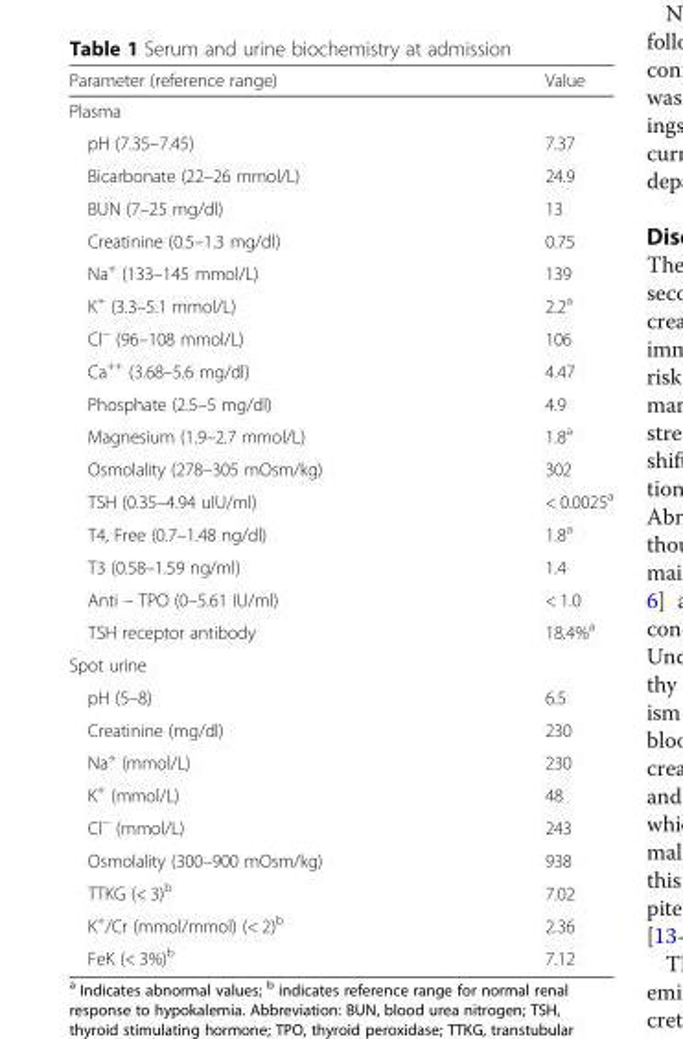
<table><thead><tr><td>Parameter (reference range)</td><td>Value</td></tr></thead><tbody><tr><td colspan="2">Plasma</td></tr><tr><td>pH (7.35–7.45)</td><td>7.37</td></tr><tr><td>Bicarbonate (22–26 mmol/L)</td><td>24.9</td></tr><tr><td>BUN (7–25 mg/dl)</td><td>13</td></tr><tr><td>Creatinine (0.5–1.3 mg/dl)</td><td>0.75</td></tr><tr><td>Na<sup>+</sup> (133–145 mmol/L)</td><td>139</td></tr><tr><td>K<sup>+</sup> (3.3–5.1 mmol/L)</td><td>2.2<sup>a</sup></td></tr><tr><td>Cl<sup>−</sup> (96–108 mmol/L)</td><td>106</td></tr><tr><td>Ca<sup>++</sup> (3.68–5.6 mg/dl)</td><td>4.47</td></tr><tr><td>Phosphate (2.5–5 mg/dl)</td><td>4.9</td></tr><tr><td>Magnesium (1.9–2.7 mmol/L)</td><td>1.8<sup>a</sup></td></tr><tr><td>Osmolality (278–305 mOsm/kg)</td><td>302</td></tr><tr><td>TSH (0.35–4.94 uIU/ml)</td><td>&lt; 0.0025<sup>a</sup></td></tr><tr><td>T4, Free (0.7–1.48 ng/dl)</td><td>1.8<sup>a</sup></td></tr><tr><td>T3 (0.58–1.59 ng/ml)</td><td>1.4</td></tr><tr><td>Anti – TPO (0–5.61 IU/ml)</td><td>&lt; 1.0</td></tr><tr><td>TSH receptor antibody</td><td>18.4%<sup>a</sup></td></tr><tr><td colspan="2">Spot urine</td></tr><tr><td>pH (5–8)</td><td>6.5</td></tr><tr><td>Creatinine (mg/dl)</td><td>230</td></tr><tr><td>Na<sup>+</sup> (mmol/L)</td><td>230</td></tr><tr><td>K<sup>+</sup> (mmol/L)</td><td>48</td></tr><tr><td>Cl<sup>−</sup> (mmol/L)</td><td>243</td></tr><tr><td>Osmolality (300–900 mOsm/kg)</td><td>938</td></tr><tr><td>TTKG (&lt; 3)<sup>b</sup></td><td>7.02</td></tr><tr><td>K<sup>+</sup>/Cr (mmol/mmol) (&lt; 2)<sup>b</sup></td><td>2.36</td></tr><tr><td>FeK (&lt; 3%)<sup>b</sup></td><td>7.12</td></tr></tbody></table>